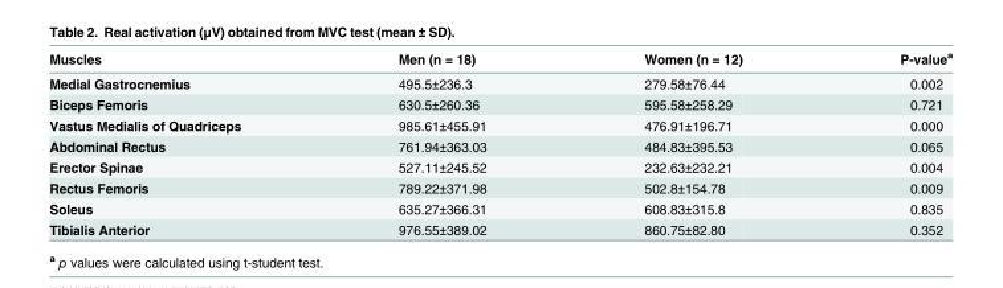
<table><thead><tr><td>Muscles</td><td>Men (n = 18)</td><td>Women (n = 12)</td><td>P-value<sup>a</sup></td></tr></thead><tbody><tr><td>Medial Gastrocnemius</td><td>495.5±236.3</td><td>279.58±76.44</td><td>0.002</td></tr><tr><td>Biceps Femoris</td><td>630.5±260.36</td><td>595.58±258.29</td><td>0.721</td></tr><tr><td>Vastus Medialis of Quadriceps</td><td>985.61±455.91</td><td>476.91±196.71</td><td>0.000</td></tr><tr><td>Abdominal Rectus</td><td>761.94±363.03</td><td>484.83±395.53</td><td>0.065</td></tr><tr><td>Erector Spinae</td><td>527.11±245.52</td><td>232.63±232.21</td><td>0.004</td></tr><tr><td>Rectus Femoris</td><td>789.22±371.98</td><td>502.8±154.78</td><td>0.009</td></tr><tr><td>Soleus</td><td>635.27±366.31</td><td>608.83±315.8</td><td>0.835</td></tr><tr><td>Tibialis Anterior</td><td>976.55±389.02</td><td>860.75±82.80</td><td>0.352</td></tr></tbody></table>